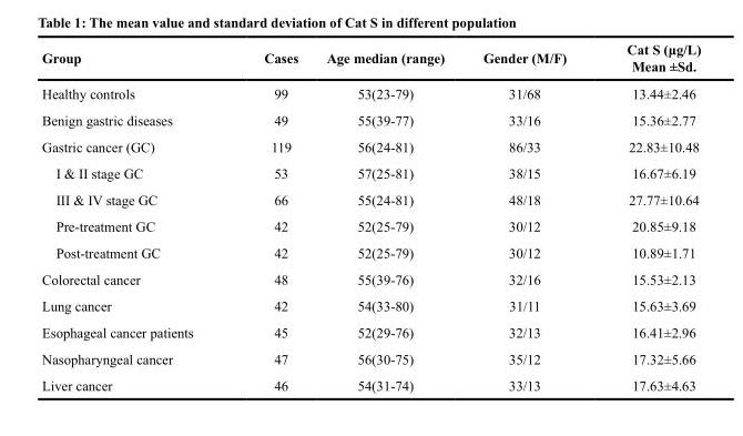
<table><thead><tr><td>Group</td><td>Cases</td><td>Age median (range)</td><td>Gender (M/F)</td><td>Cat S (μg/L) Mean ±Sd.</td></tr></thead><tbody><tr><td>Healthy controls</td><td>99</td><td>53(23-79)</td><td>31/68</td><td>13.44±2.46</td></tr><tr><td>Benign gastric diseases</td><td>49</td><td>55(39-77)</td><td>33/16</td><td>15.36±2.77</td></tr><tr><td>Gastric cancer (GC)</td><td>119</td><td>56(24-81)</td><td>86/33</td><td>22.83±10.48</td></tr><tr><td>I &amp; II stage GC</td><td>53</td><td>57(25-81)</td><td>38/15</td><td>16.67±6.19</td></tr><tr><td>III &amp; IV stage GC</td><td>66</td><td>55(24-81)</td><td>48/18</td><td>27.77±10.64</td></tr><tr><td>Pre-treatment GC</td><td>42</td><td>52(25-79)</td><td>30/12</td><td>20.85±9.18</td></tr><tr><td>Post-treatment GC</td><td>42</td><td>52(25-79)</td><td>30/12</td><td>10.89±1.71</td></tr><tr><td>Colorectal cancer</td><td>48</td><td>55(39-76)</td><td>32/16</td><td>15.53±2.13</td></tr><tr><td>Lung cancer</td><td>42</td><td>54(33-80)</td><td>31/11</td><td>15.63±3.69</td></tr><tr><td>Esophageal cancer patients</td><td>45</td><td>52(29-76)</td><td>32/13</td><td>16.41±2.96</td></tr><tr><td>Nasopharyngeal cancer</td><td>47</td><td>56(30-75)</td><td>35/12</td><td>17.32±5.66</td></tr><tr><td>Liver cancer</td><td>46</td><td>54(31-74)</td><td>33/13</td><td>17.63±4.63</td></tr></tbody></table>